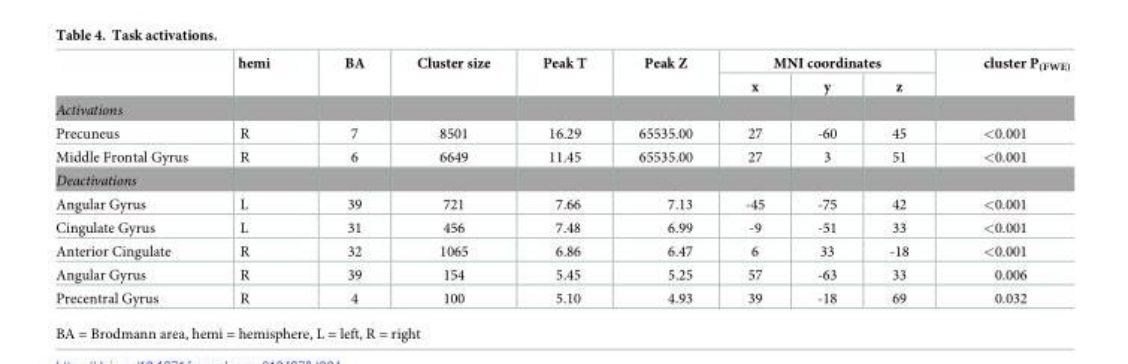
<table><thead><tr><td rowspan="2"></td><td rowspan="2">hemi</td><td rowspan="2">BA</td><td rowspan="2">Cluster size</td><td rowspan="2">Peak T</td><td rowspan="2">Peak Z</td><td colspan="3">MNI coordinates</td><td rowspan="2">cluster P<sub>(FWE)</sub></td></tr><tr><td>x</td><td>y</td><td>z</td></tr></thead><tbody><tr><td colspan="10">Activations</td></tr><tr><td>Precuneus</td><td>R</td><td>7</td><td>8501</td><td>16.29</td><td>65535.00</td><td>27</td><td>-60</td><td>45</td><td>&lt;0.001</td></tr><tr><td>Middle Frontal Gyrus</td><td>R</td><td>6</td><td>6649</td><td>11.45</td><td>65535.00</td><td>27</td><td>3</td><td>51</td><td>&lt;0.001</td></tr><tr><td colspan="10">Deactivations</td></tr><tr><td>Angular Gyrus</td><td>L</td><td>39</td><td>721</td><td>7.66</td><td>7.13</td><td>-45</td><td>-75</td><td>42</td><td>&lt;0.001</td></tr><tr><td>Cingulate Gyrus</td><td>L</td><td>31</td><td>456</td><td>7.48</td><td>6.99</td><td>-9</td><td>-51</td><td>33</td><td>&lt;0.001</td></tr><tr><td>Anterior Cingulate</td><td>R</td><td>32</td><td>1065</td><td>6.86</td><td>6.47</td><td>6</td><td>33</td><td>-18</td><td>&lt;0.001</td></tr><tr><td>Angular Gyrus</td><td>R</td><td>39</td><td>154</td><td>5.45</td><td>5.25</td><td>57</td><td>-63</td><td>33</td><td>0.006</td></tr><tr><td>Precentral Gyrus</td><td>R</td><td>4</td><td>100</td><td>5.10</td><td>4.93</td><td>39</td><td>-18</td><td>69</td><td>0.032</td></tr></tbody></table>